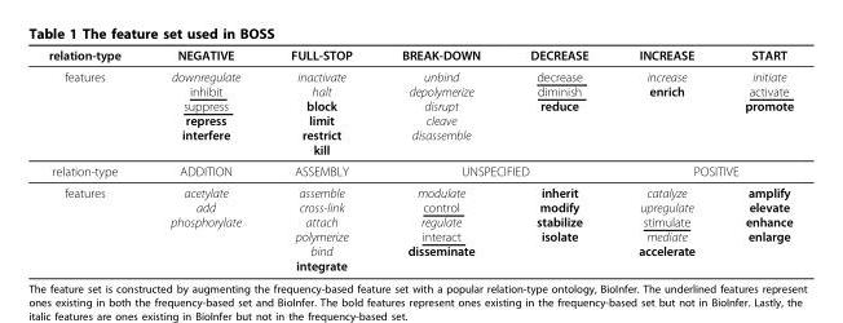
<table><thead><tr><td>relation-type</td><td>NEGATIVE</td><td>FULL-STOP</td><td>BREAK-DOWN</td><td>DECREASE</td><td>INCREASE</td><td>START</td></tr></thead><tbody><tr><td>features</td><td>downregulate inhibit suppress repress interfere</td><td>inactivate halt block limit restrict kill</td><td>unbind depolymerize disrupt cleave disassemble</td><td>decrease diminish reduce</td><td>increase enrich</td><td>initiate activate promote</td></tr><tr><td>relation-type</td><td>ADDITION</td><td>ASSEMBLY</td><td colspan="2">UNSPECIFIED</td><td colspan="2">POSITIVE</td></tr><tr><td>features</td><td>acetylate add phosphorylate</td><td>assemble cross-link attach polymerize bind integrate</td><td>modulate control regulate interact disseminate</td><td>inherit modify stabilize isolate</td><td>catalyze upregulate stimulate mediate accelerate</td><td>amplify elevate enhance enlarge</td></tr></tbody></table>